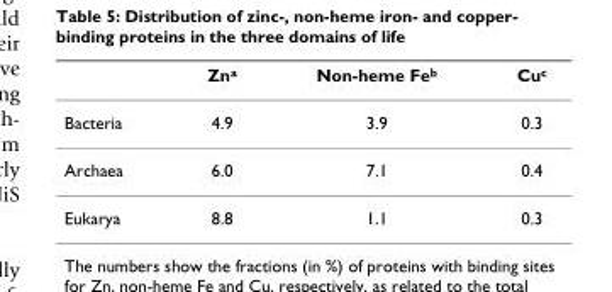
<table><thead><tr><td></td><td>Zn<sup>a</sup></td><td>Non-heme Fe<sup>b</sup></td><td>Cu<sup>c</sup></td></tr></thead><tbody><tr><td>Bacteria</td><td>4.9</td><td>3.9</td><td>0.3</td></tr><tr><td>Archaea</td><td>6.0</td><td>7.1</td><td>0.4</td></tr><tr><td>Eukarya</td><td>8.8</td><td>1.1</td><td>0.3</td></tr></tbody></table>